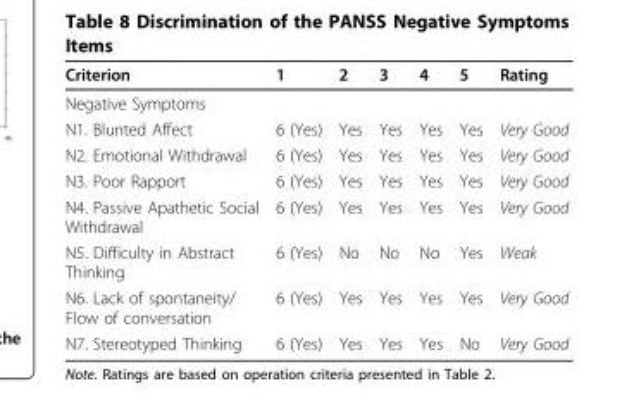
<table><thead><tr><td>Criterion</td><td>1</td><td>2</td><td>3</td><td>4</td><td>5</td><td>Rating</td></tr></thead><tbody><tr><td colspan="7">Negative Symptoms</td></tr><tr><td>N1. Blunted Affect</td><td>6 (Yes)</td><td>Yes</td><td>Yes</td><td>Yes</td><td>Yes</td><td>Very Good</td></tr><tr><td>N2. Emotional Withdrawal</td><td>6 (Yes)</td><td>Yes</td><td>Yes</td><td>Yes</td><td>Yes</td><td>Very Good</td></tr><tr><td>N3. Poor Rapport</td><td>6 (Yes)</td><td>Yes</td><td>Yes</td><td>Yes</td><td>Yes</td><td>Very Good</td></tr><tr><td>N4. Passive Apathetic Social Withdrawal</td><td>6 (Yes)</td><td>Yes</td><td>Yes</td><td>Yes</td><td>Yes</td><td>Very Good</td></tr><tr><td>N5. Difficulty in Abstract Thinking</td><td>6 (Yes)</td><td>No</td><td>No</td><td>No</td><td>Yes</td><td>Weak</td></tr><tr><td>N6. Lack of spontaneity/ Flow of conversation</td><td>6 (Yes)</td><td>Yes</td><td>Yes</td><td>Yes</td><td>Yes</td><td>Very Good</td></tr><tr><td>N7. Stereotyped Thinking</td><td>6 (Yes)</td><td>Yes</td><td>Yes</td><td>Yes</td><td>No</td><td>Very Good</td></tr></tbody></table>